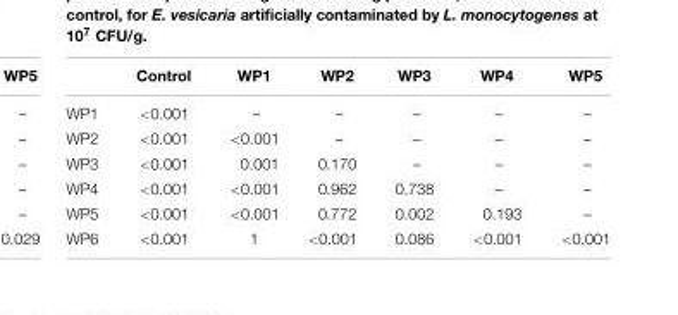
<table><thead><tr><td></td><td>Control</td><td>WP1</td><td>WP2</td><td>WP3</td><td>WP4</td><td>WP5</td></tr></thead><tbody><tr><td>WP1</td><td>&lt;0.001</td><td>–</td><td>–</td><td>–</td><td>–</td><td>–</td></tr><tr><td>WP2</td><td>&lt;0.001</td><td>&lt;0.001</td><td>–</td><td>–</td><td>–</td><td>–</td></tr><tr><td>WP3</td><td>&lt;0.001</td><td>0.001</td><td>0.170</td><td>–</td><td>–</td><td>–</td></tr><tr><td>WP4</td><td>&lt;0.001</td><td>&lt;0.001</td><td>0.962</td><td>0.738</td><td>–</td><td>–</td></tr><tr><td>WP5</td><td>&lt;0.001</td><td>&lt;0.001</td><td>0.772</td><td>0.002</td><td>0.193</td><td>–</td></tr><tr><td>WP6</td><td>&lt;0.001</td><td>1</td><td>&lt;0.001</td><td>0.086</td><td>&lt;0.001</td><td>&lt;0.001</td></tr></tbody></table>